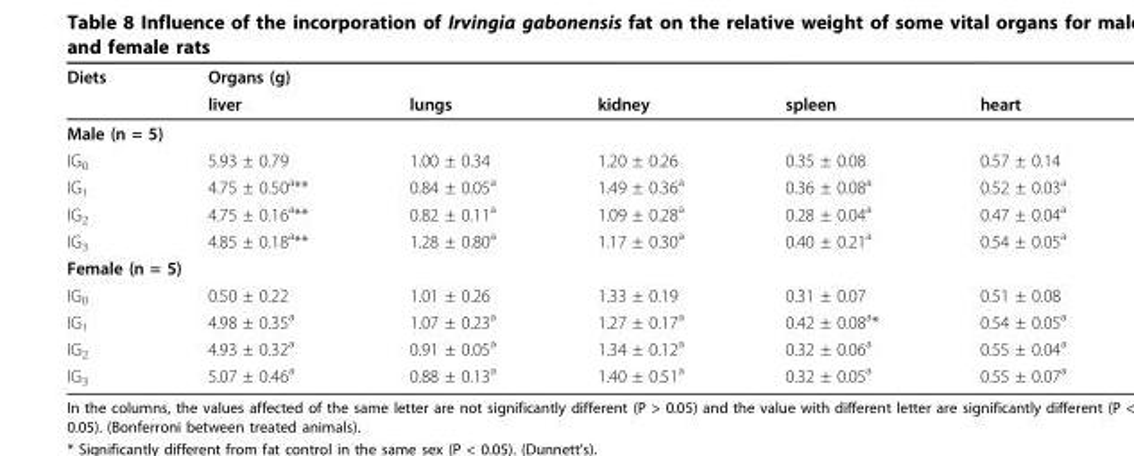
<table><thead><tr><td rowspan="2">Diets</td><td colspan="5">Organs (g)</td></tr><tr><td>liver</td><td>lungs</td><td>kidney</td><td>spleen</td><td>heart</td></tr></thead><tbody><tr><td colspan="6">Male (n = 5)</td></tr><tr><td>IG<sub>0</sub></td><td>5.93 ± 0.79</td><td>1.00 ± 0.34</td><td>1.20 ± 0.26</td><td>0.35 ± 0.08</td><td>0.57 ± 0.14</td></tr><tr><td>IG<sub>1</sub></td><td>4.75 ± 0.50<sup>a</sup>**</td><td>0.84 ± 0.05<sup>a</sup></td><td>1.49 ± 0.36<sup>a</sup></td><td>0.36 ± 0.08<sup>a</sup></td><td>0.52 ± 0.03<sup>a</sup></td></tr><tr><td>IG<sub>2</sub></td><td>4.75 ± 0.16<sup>a</sup>**</td><td>0.82 ± 0.11<sup>a</sup></td><td>1.09 ± 0.28<sup>a</sup></td><td>0.28 ± 0.04<sup>a</sup></td><td>0.47 ± 0.04<sup>a</sup></td></tr><tr><td>IG<sub>3</sub></td><td>4.85 ± 0.18<sup>a</sup>**</td><td>1.28 ± 0.80<sup>a</sup></td><td>1.17 ± 0.30<sup>a</sup></td><td>0.40 ± 0.21<sup>a</sup></td><td>0.54 ± 0.05<sup>a</sup></td></tr><tr><td colspan="6">Female (n = 5)</td></tr><tr><td>IG<sub>0</sub></td><td>0.50 ± 0.22</td><td>1.01 ± 0.26</td><td>1.33 ± 0.19</td><td>0.31 ± 0.07</td><td>0.51 ± 0.08</td></tr><tr><td>IG<sub>1</sub></td><td>4.98 ± 0.35<sup>a</sup></td><td>1.07 ± 0.23<sup>a</sup></td><td>1.27 ± 0.17<sup>a</sup></td><td>0.42 ± 0.08<sup>a</sup>*</td><td>0.54 ± 0.05<sup>a</sup></td></tr><tr><td>IG<sub>2</sub></td><td>4.93 ± 0.32<sup>a</sup></td><td>0.91 ± 0.05<sup>a</sup></td><td>1.34 ± 0.12<sup>a</sup></td><td>0.32 ± 0.06<sup>a</sup></td><td>0.55 ± 0.04<sup>a</sup></td></tr><tr><td>IG<sub>3</sub></td><td>5.07 ± 0.46<sup>a</sup></td><td>0.88 ± 0.13<sup>a</sup></td><td>1.40 ± 0.51<sup>a</sup></td><td>0.32 ± 0.05<sup>a</sup></td><td>0.55 ± 0.07<sup>a</sup></td></tr></tbody></table>